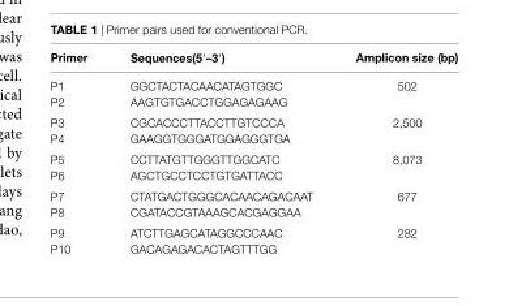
<table><thead><tr><td>Primer</td><td>sequences(5′–3′)</td><td>amplicon size (bp)</td></tr></thead><tbody><tr><td>P1</td><td>GGCTACTACAACATAGTGGC</td><td rowspan="2">502</td></tr><tr><td>P2</td><td>AAGTGTGACCTGGAGAGAAG</td></tr><tr><td>P3</td><td>CGCACCCTTACCTTGTCCCA</td><td rowspan="2">2,500</td></tr><tr><td>P4</td><td>GAAGGTGGGATGGAGGGTGA</td></tr><tr><td>P5</td><td>CCTTATGTTGGGTTGGCATC</td><td rowspan="2">8,073</td></tr><tr><td>P6</td><td>AGCTGCCTCCTGTGATTACC</td></tr><tr><td>P7</td><td>CTATGACTGGGCACAACAGACAAT</td><td rowspan="2">677</td></tr><tr><td>P8</td><td>CGATACCGTAAAGCACGAGGAA</td></tr><tr><td>P9</td><td>ATCTTGAGCATAGGCCCAAC</td><td rowspan="2">282</td></tr><tr><td>P10</td><td>GACAGAGACACTAGTTTGG</td></tr></tbody></table>